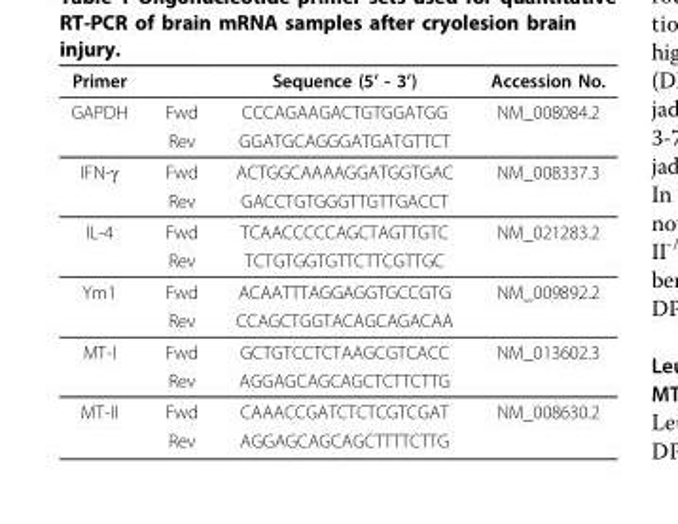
<table><thead><tr><td>Primer</td><td></td><td>Sequence (5’ - 3’)</td><td>Accession No.</td></tr></thead><tbody><tr><td rowspan="2">GAPDH</td><td>Fwd</td><td>CCCAGAAGACTGTGGATGG</td><td>NM_008084.2</td></tr><tr><td>Rev</td><td>GGATGCAGGGATGATGTTCT</td><td></td></tr><tr><td rowspan="2">IFN-γ</td><td>Fwd</td><td>ACTGGCAAAAGGATGGTGAC</td><td>NM_008337.3</td></tr><tr><td>Rev</td><td>GACCTGTGGGTTGTTGACCT</td><td></td></tr><tr><td rowspan="2">IL-4</td><td>Fwd</td><td>TCAACCCCCAGCTAGTTGTC</td><td>NM_021283.2</td></tr><tr><td>Rev</td><td>TCTGTGGTGTTCTTCGTTGC</td><td></td></tr><tr><td rowspan="2">Ym1</td><td>Fwd</td><td>ACAATTTAGGAGGTGCCGTG</td><td>NM_009892.2</td></tr><tr><td>Rev</td><td>CCAGCTGGTACAGCAGACAA</td><td></td></tr><tr><td rowspan="2">MT-I</td><td>Fwd</td><td>GCTGTCCTCTAAGCGTCACC</td><td>NM_013602.3</td></tr><tr><td>Rev</td><td>AGGAGCAGCAGCTCTTCTTG</td><td></td></tr><tr><td rowspan="2">MT-II</td><td>Fwd</td><td>CAAACCGATCTCTCGTCGAT</td><td>NM_008630.2</td></tr><tr><td>Rev</td><td>AGGAGCAGCAGCTTTTCTTG</td><td></td></tr></tbody></table>